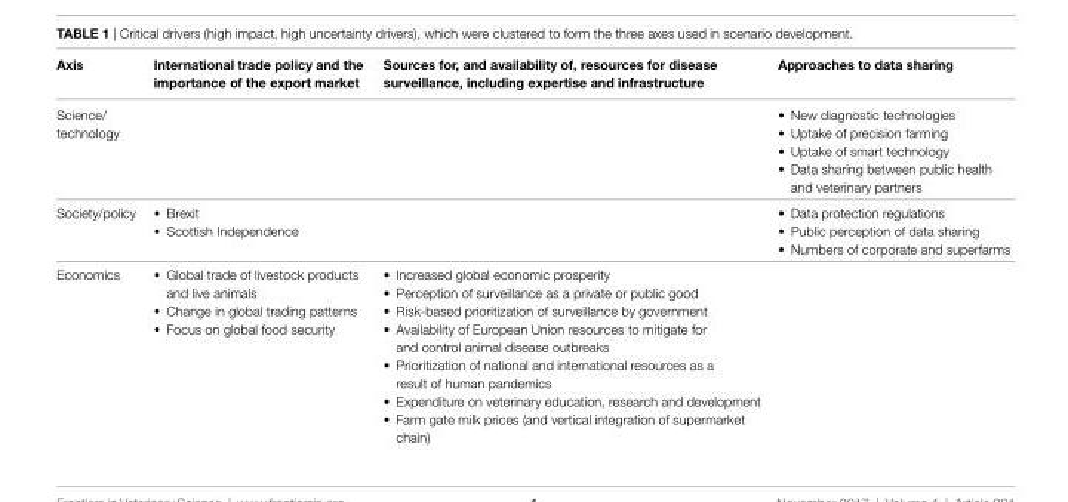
<table><thead><tr><td>axis</td><td>international trade policy and the importance of the export market</td><td>sources for, and availability of, resources for disease surveillance, including expertise and infrastructure</td><td>approaches to data sharing</td></tr></thead><tbody><tr><td>Science/ technology</td><td></td><td></td><td>• New diagnostic technologies • Uptake of precision farming • Uptake of smart technology • Data sharing between public health and veterinary partners</td></tr><tr><td>Society/policy</td><td>• Brexit • Scottish Independence</td><td></td><td>• Data protection regulations • Public perception of data sharing • Numbers of corporate and superfarms</td></tr><tr><td>Economics</td><td>• Global trade of livestock products and live animals • Change in global trading patterns • Focus on global food security</td><td>• Increased global economic prosperity • Perception of surveillance as a private or public good • Risk-based prioritization of surveillance by government • Availability of European Union resources to mitigate for and control animal disease outbreaks • Prioritization of national and international resources as a result of human pandemics • Expenditure on veterinary education, research and development • Farm gate milk prices (and vertical integration of supermarket chain)</td><td></td></tr></tbody></table>